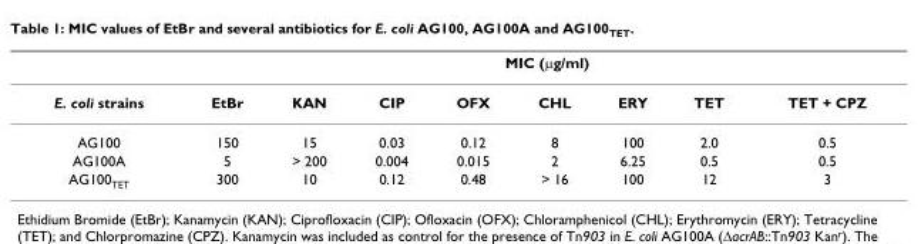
<table><thead><tr><td rowspan="2">E. coli strains</td><td colspan="8">MIC (μg/ml)</td></tr><tr><td>EtBr</td><td>KAN</td><td>CIP</td><td>OFX</td><td>CHL</td><td>ERY</td><td>TET</td><td>TET + CPZ</td></tr></thead><tbody><tr><td>AG100</td><td>150</td><td>15</td><td>0.03</td><td>0.12</td><td>8</td><td>100</td><td>2.0</td><td>0.5</td></tr><tr><td>AG100A</td><td>5</td><td>&gt; 200</td><td>0.004</td><td>0.015</td><td>2</td><td>6.25</td><td>0.5</td><td>0.5</td></tr><tr><td>AG100<sub>TET</sub></td><td>300</td><td>10</td><td>0.12</td><td>0.48</td><td>&gt; 16</td><td>100</td><td>12</td><td>3</td></tr></tbody></table>